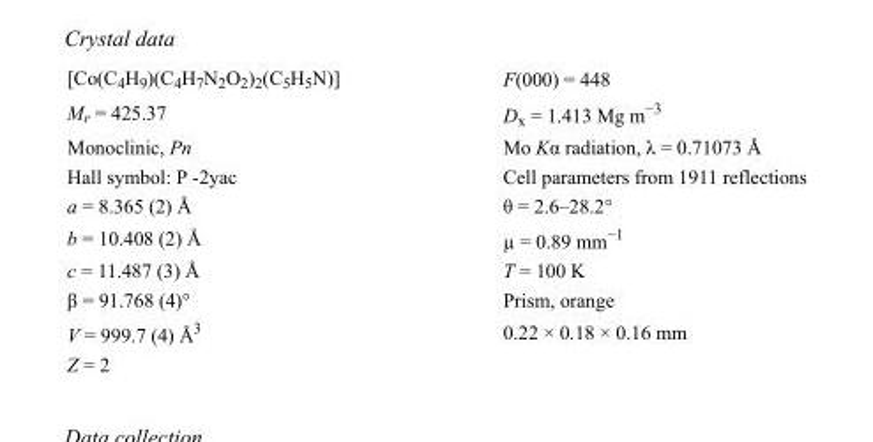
<table><tbody><tr><td>[Co(C<sub>4</sub>H<sub>9</sub>)(C<sub>4</sub>H<sub>7</sub>N<sub>2</sub>O<sub>2</sub>)<sub>2</sub>(C<sub>5</sub>H<sub>5</sub>N)]</td><td>F(000) = 448</td></tr><tr><td>M<sub>r</sub> = 425.37</td><td>D<sub>x</sub> = 1.413 Mg m<sup>−3</sup></td></tr><tr><td>Monoclinic, Pn</td><td>Mo Kα radiation, λ = 0.71073 Å</td></tr><tr><td>Hall symbol: P -2yac</td><td>Cell parameters from 1911 reflections</td></tr><tr><td>a = 8.365 (2) Å</td><td>θ = 2.6–28.2°</td></tr><tr><td>b = 10.408 (2) Å</td><td>µ = 0.89 mm<sup>−1</sup></td></tr><tr><td>c = 11.487 (3) Å</td><td>T = 100 K</td></tr><tr><td>β = 91.768 (4)°</td><td>Prism, orange</td></tr><tr><td>V = 999.7 (4) Å<sup>3</sup></td><td>0.22 × 0.18 × 0.16 mm</td></tr><tr><td>Z = 2</td><td></td></tr></tbody></table>